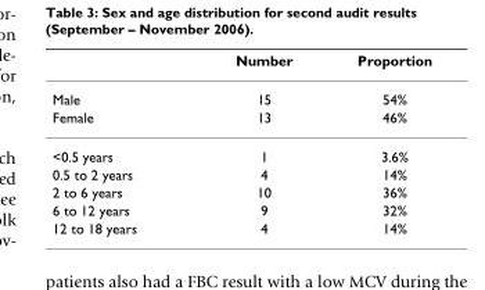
<table><thead><tr><td></td><td>Number</td><td>Proportion</td></tr></thead><tbody><tr><td>Male</td><td>15</td><td>54%</td></tr><tr><td>Female</td><td>13</td><td>46%</td></tr><tr><td>&lt;0.5 years</td><td>1</td><td>3.6%</td></tr><tr><td>0.5 to 2 years</td><td>4</td><td>14%</td></tr><tr><td>2 to 6 years</td><td>10</td><td>36%</td></tr><tr><td>6 to 12 years</td><td>9</td><td>32%</td></tr><tr><td>12 to 18 years</td><td>4</td><td>14%</td></tr></tbody></table>